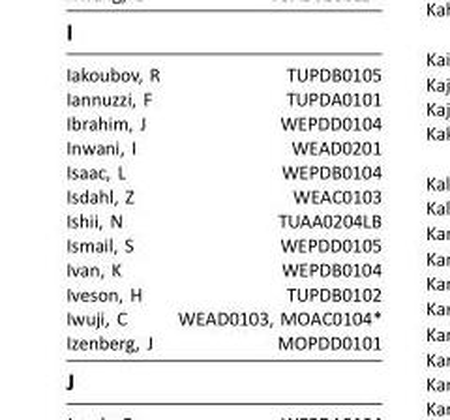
<table><tbody><tr><td>Iakoubov, R</td><td>TUPDB0105</td></tr><tr><td>Iannuzzi, F</td><td>TUPDA0101</td></tr><tr><td>Ibrahim, J</td><td>WEPDD0104</td></tr><tr><td>Inwani, I</td><td>WEAD0201</td></tr><tr><td>Isaac, L</td><td>WEPDB0104</td></tr><tr><td>Isdahl, Z</td><td>WEAC0103</td></tr><tr><td>Ishii, N</td><td>TUAA0204LB</td></tr><tr><td>Ismail, S</td><td>WEPDD0105</td></tr><tr><td>Ivan, K</td><td>WEPDB0104</td></tr><tr><td>Iveson, H</td><td>TUPDB0102</td></tr><tr><td>Iwuji, C</td><td>WEAD0103, MOAC0104*</td></tr><tr><td>Izenberg, J</td><td>MOPDD0101</td></tr></tbody></table>